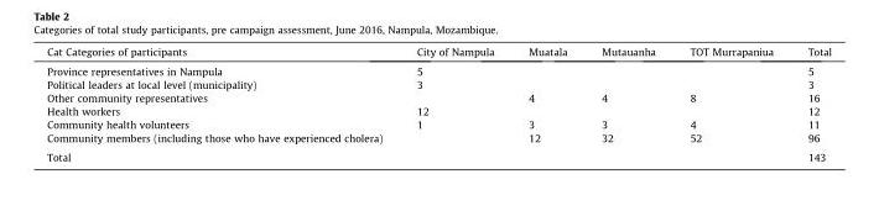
<table><thead><tr><td>Cat Categories of participants</td><td>City of Nampula</td><td>Muatala</td><td>Mutauanha</td><td>TOT Murrapaniua</td><td>Total</td></tr></thead><tbody><tr><td>Province representatives in Nampula</td><td>5</td><td></td><td></td><td></td><td>5</td></tr><tr><td>Political leaders at local level (municipality)</td><td>3</td><td></td><td></td><td></td><td>3</td></tr><tr><td>Other community representatives</td><td></td><td>4</td><td>4</td><td>8</td><td>16</td></tr><tr><td>Health workers</td><td>12</td><td></td><td></td><td></td><td>12</td></tr><tr><td>Community health volunteers</td><td>1</td><td>3</td><td>3</td><td>4</td><td>11</td></tr><tr><td>Community members (including those who have experienced cholera)</td><td></td><td>12</td><td>32</td><td>52</td><td>96</td></tr><tr><td>Total</td><td></td><td></td><td></td><td></td><td>143</td></tr></tbody></table>